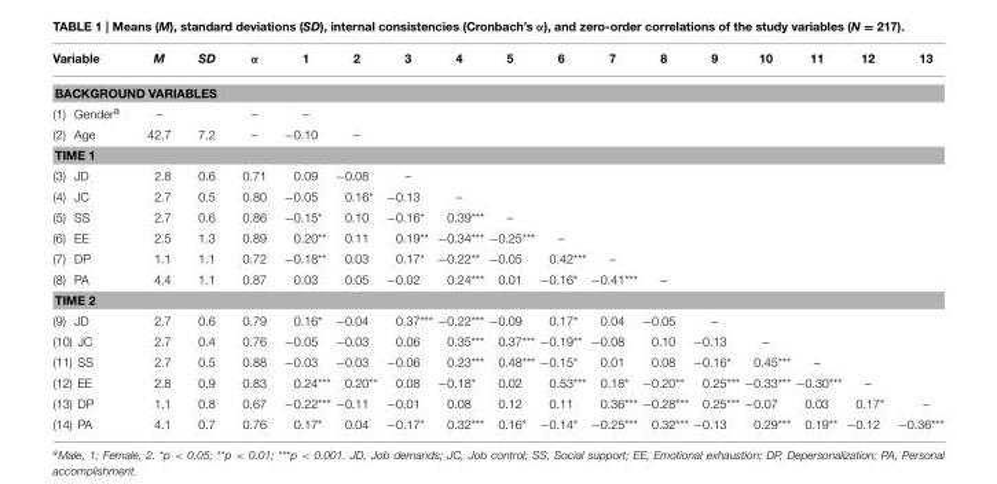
<table><thead><tr><td>Variable</td><td>M</td><td>SD</td><td>α</td><td>1</td><td>2</td><td>3</td><td>4</td><td>5</td><td>6</td><td>7</td><td>8</td><td>9</td><td>10</td><td>11</td><td>12</td><td>13</td></tr></thead><tbody><tr><td colspan="17">BACKGROUND VARIABLES</td></tr><tr><td>(1) Gender<sup>a</sup></td><td>–</td><td></td><td>–</td><td>–</td><td></td><td></td><td></td><td></td><td></td><td></td><td></td><td></td><td></td><td></td><td></td><td></td></tr><tr><td>(2) Age</td><td>42.7</td><td>7.2</td><td>–</td><td>−0.10</td><td>–</td><td></td><td></td><td></td><td></td><td></td><td></td><td></td><td></td><td></td><td></td><td></td></tr><tr><td colspan="17">TIME 1</td></tr><tr><td>(3) JD</td><td>2.8</td><td>0.6</td><td>0.71</td><td>0.09</td><td>−0.08</td><td>–</td><td></td><td></td><td></td><td></td><td></td><td></td><td></td><td></td><td></td><td></td></tr><tr><td>(4) JC</td><td>2.7</td><td>0.5</td><td>0.80</td><td>−0.05</td><td>0.16*</td><td>−0.13</td><td>–</td><td></td><td></td><td></td><td></td><td></td><td></td><td></td><td></td><td></td></tr><tr><td>(5) SS</td><td>2.7</td><td>0.6</td><td>0.86</td><td>−0.15*</td><td>0.10</td><td>−0.16*</td><td>0.39***</td><td>–</td><td></td><td></td><td></td><td></td><td></td><td></td><td></td><td></td></tr><tr><td>(6) EE</td><td>2.5</td><td>1.3</td><td>0.89</td><td>0.20**</td><td>0.11</td><td>0.19**</td><td>−0.34***</td><td>−0.25***</td><td>–</td><td></td><td></td><td></td><td></td><td></td><td></td><td></td></tr><tr><td>(7) DP</td><td>1.1</td><td>1.1</td><td>0.72</td><td>−0.18**</td><td>0.03</td><td>0.17*</td><td>−0.22**</td><td>−0.05</td><td>0.42***</td><td>–</td><td></td><td></td><td></td><td></td><td></td><td></td></tr><tr><td>(8) PA</td><td>4.4</td><td>1.1</td><td>0.87</td><td>0.03</td><td>0.05</td><td>−0.02</td><td>0.24***</td><td>0.01</td><td>−0.16*</td><td>−0.41***</td><td>–</td><td></td><td></td><td></td><td></td><td></td></tr><tr><td colspan="17">TIME 2</td></tr><tr><td>(9) JD</td><td>2.7</td><td>0.6</td><td>0.79</td><td>0.16*</td><td>−0.04</td><td>0.37***</td><td>−0.22***</td><td>−0.09</td><td>0.17*</td><td>0.04</td><td>−0.05</td><td>–</td><td></td><td></td><td></td><td></td></tr><tr><td>(10) JC</td><td>2.7</td><td>0.4</td><td>0.76</td><td>−0.05</td><td>−0.03</td><td>0.06</td><td>0.35***</td><td>0.37***</td><td>−0.19**</td><td>−0.08</td><td>0.10</td><td>−0.13</td><td>–</td><td></td><td></td><td></td></tr><tr><td>(11) SS</td><td>2.7</td><td>0.5</td><td>0.88</td><td>−0.03</td><td>−0.03</td><td>−0.06</td><td>0.23***</td><td>0.48***</td><td>−0.15*</td><td>0.01</td><td>0.08</td><td>−0.16*</td><td>0.45***</td><td>–</td><td></td><td></td></tr><tr><td>(12) EE</td><td>2.8</td><td>0.9</td><td>0.83</td><td>0.24***</td><td>0.20**</td><td>0.08</td><td>−0.18*</td><td>0.02</td><td>0.53***</td><td>0.18*</td><td>−0.20**</td><td>0.25***</td><td>−0.33***</td><td>−0.30***</td><td>–</td><td></td></tr><tr><td>(13) DP</td><td>1.1</td><td>0.8</td><td>0.67</td><td>−0.22***</td><td>−0.11</td><td>−0.01</td><td>0.08</td><td>0.12</td><td>0.11</td><td>0.36***</td><td>−0.28***</td><td>0.25***</td><td>−0.07</td><td>0.03</td><td>0.17*</td><td>–</td></tr><tr><td>(14) PA</td><td>4.1</td><td>0.7</td><td>0.76</td><td>0.17*</td><td>0.04</td><td>−0.17*</td><td>0.32***</td><td>0.16*</td><td>−0.14*</td><td>−0.25***</td><td>0.32***</td><td>−0.13</td><td>0.29***</td><td>0.19**</td><td>−0.12</td><td>−0.36***</td></tr></tbody></table>